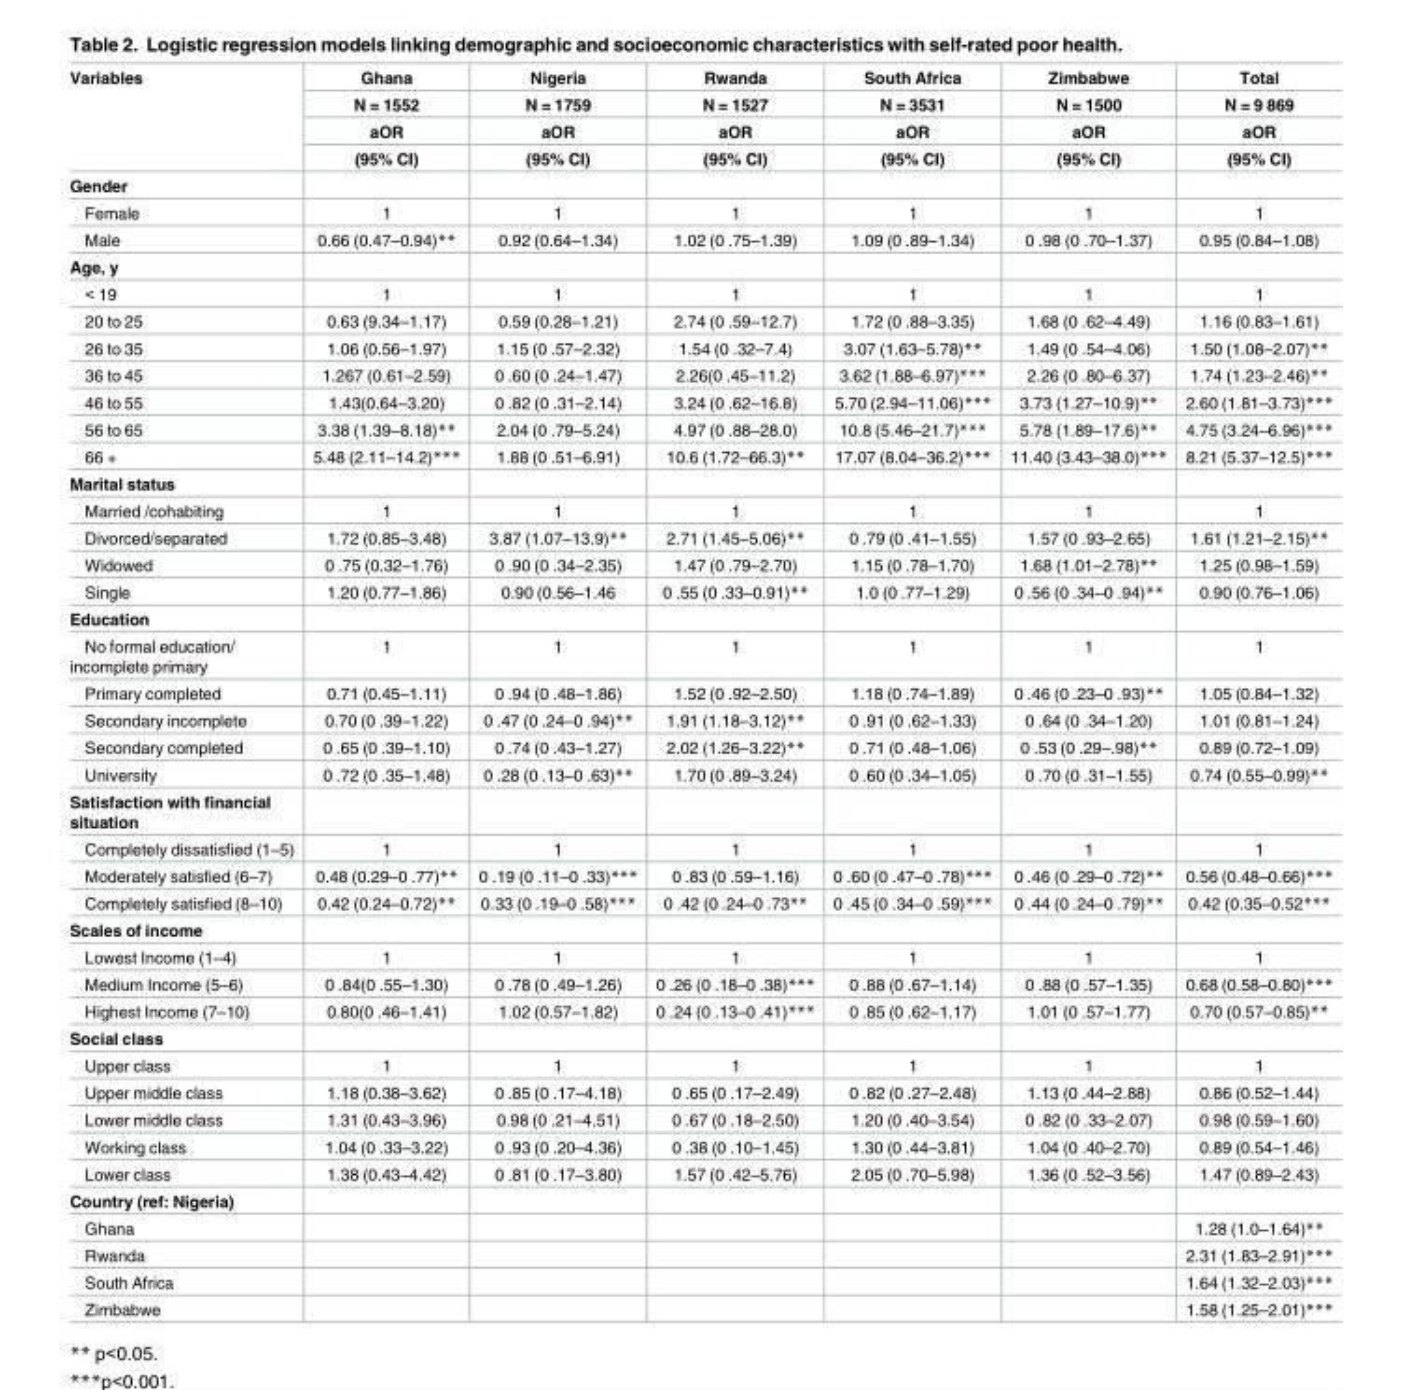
<table><thead><tr><td rowspan="4">Variables</td><td rowspan="4">Ghana N = 1552 aOR (95% CI)</td><td rowspan="4">Nigeria N = 1759 aOR (95% CI)</td><td rowspan="4">Rwanda N = 1527 aOR (95% CI)</td><td rowspan="4">South Africa N = 3531 aOR (95% CI)</td><td rowspan="4">Zimbabwe N = 1500 aOR (95% CI)</td><td rowspan="4">Total N = 9 869 aOR (95% CI)</td></tr><tr></tr><tr></tr><tr></tr></thead><tbody><tr><td colspan="7">Gender</td></tr><tr><td>Female</td><td>1</td><td>1</td><td>1</td><td>1</td><td>1</td><td>1</td></tr><tr><td>Male</td><td>0.66 (0.47–0.94)**</td><td>0.92 (0.64–1.34)</td><td>1.02 (0 .75–1.39)</td><td>1.09 (0 .89–1.34)</td><td>0 .98 (0 .70–1.37)</td><td>0.95 (0.84–1.08)</td></tr><tr><td colspan="7">Age, y</td></tr><tr><td>&lt; 19</td><td>1</td><td>1</td><td>1</td><td>1</td><td>1</td><td>1</td></tr><tr><td>20 to 25</td><td>0.63 (9.34–1.17)</td><td>0.59 (0.28–1.21)</td><td>2.74 (0 .59–12.7)</td><td>1.72 (0 .88–3.35)</td><td>1.68 (0 .62–4.49)</td><td>1.16 (0.83–1.61)</td></tr><tr><td>26 to 35</td><td>1.06 (0.56–1.97)</td><td>1.15 (0 .57–2.32)</td><td>1.54 (0 .32–7.4)</td><td>3.07 (1.63–5.78)**</td><td>1.49 (0 .54–4.06)</td><td>1.50 (1.08–2.07)**</td></tr><tr><td>36 to 45</td><td>1.267 (0.61–2.59)</td><td>0 .60 (0 .24–1.47)</td><td>2.26(0 .45–11.2)</td><td>3.62 (1.88–6.97)***</td><td>2.26 (0 .80–6.37)</td><td>1.74 (1.23–2.46)**</td></tr><tr><td>46 to 55</td><td>1.43(0.64–3.20)</td><td>0 .82 (0 .31–2.14)</td><td>3.24 (0 .62–16.8)</td><td>5.70 (2.94–11.06)***</td><td>3.73 (1.27–10.9)**</td><td>2.60 (1.81–3.73)***</td></tr><tr><td>56 to 65</td><td>3.38 (1.39–8.18)**</td><td>2.04 (0 .79–5.24)</td><td>4.97 (0 .88–28.0)</td><td>10.8 (5.46–21.7)***</td><td>5.78 (1.89–17.6)**</td><td>4.75 (3.24–6.96)***</td></tr><tr><td>66 +</td><td>5.48 (2.11–14.2)***</td><td>1.88 (0 .51–6.91)</td><td>10.6 (1.72–66.3)**</td><td>17.07 (8.04–36.2)***</td><td>11.40 (3.43–38.0)***</td><td>8.21 (5.37–12.5)***</td></tr><tr><td colspan="7">Marital status</td></tr><tr><td>Married /cohabiting</td><td>1</td><td>1</td><td>1</td><td>1</td><td>1</td><td>1</td></tr><tr><td>Divorced/separated</td><td>1.72 (0.85–3.48)</td><td>3.87 (1.07–13.9)**</td><td>2.71 (1.45–5.06)**</td><td>0 .79 (0 .41–1.55)</td><td>1.57 (0 .93–2.65)</td><td>1.61 (1.21–2.15)**</td></tr><tr><td>Widowed</td><td>0 .75 (0.32–1.76)</td><td>0 .90 (0 .34–2.35)</td><td>1.47 (0 .79–2.70)</td><td>1.15 (0 .78–1.70)</td><td>1.68 (1.01–2.78)**</td><td>1.25 (0.98–1.59)</td></tr><tr><td>Single</td><td>1.20 (0.77–1.86)</td><td>0.90 (0.56–1.46</td><td>0 .55 (0 .33–0.91)**</td><td>1.0 (0 .77–1.29)</td><td>0 .56 (0 .34–0 .94)**</td><td>0.90 (0.76–1.06)</td></tr><tr><td colspan="7">Education</td></tr><tr><td>No formal education/ incomplete primary</td><td>1</td><td>1</td><td>1</td><td>1</td><td>1</td><td>1</td></tr><tr><td>Primary completed</td><td>0.71 (0.45–1.11)</td><td>0 .94 (0 .48–1.86)</td><td>1.52 (0 .92–2.50)</td><td>1.18 (0 .74–1.89)</td><td>0 .46 (0 .23–0 .93)**</td><td>1.05 (0.84–1.32)</td></tr><tr><td>Secondary incomplete</td><td>0.70 (0 .39–1.22)</td><td>0 .47 (0 .24–0 .94)**</td><td>1.91 (1.18–3.12)**</td><td>0 .91 (0 .62–1.33)</td><td>0 .64 (0 .34–1.20)</td><td>1.01 (0.81–1.24)</td></tr><tr><td>Secondary completed</td><td>0 .65 (0 .39–1.10)</td><td>0 .74 (0 .43–1.27)</td><td>2.02 (1.26–3.22)**</td><td>0 .71 (0 .48–1.06)</td><td>0 .53 (0 .29–.98)**</td><td>0.89 (0.72–1.09)</td></tr><tr><td>University</td><td>0 .72 (0 .35–1.48)</td><td>0 .28 (0 .13–0 .63)**</td><td>1.70 (0 .89–3.24)</td><td>0 .60 (0 .34–1.05)</td><td>0 .70 (0 .31–1.55)</td><td>0.74 (0.55–0.99)**</td></tr><tr><td colspan="7">Satisfaction with financial situation</td></tr><tr><td>Completely dissatisfied (1–5)</td><td>1</td><td>1</td><td>1</td><td>1</td><td>1</td><td>1</td></tr><tr><td>Moderately satisfied (6–7)</td><td>0.48 (0.29–0 .77)**</td><td>0 .19 (0 .11–0 .33)***</td><td>0 .83 (0 .59–1.16)</td><td>0 .60 (0 .47–0 .78)***</td><td>0 .46 (0 .29–0 .72)**</td><td>0.56 (0.48–0.66)***</td></tr><tr><td>Completely satisfied (8–10)</td><td>0.42 (0.24–0.72)**</td><td>0.33 (0 .19–0 .58)***</td><td>0 .42 (0 .24–0 .73**</td><td>0 .45 (0 .34–0 .59)***</td><td>0 .44 (0 .24–0 .79)**</td><td>0.42 (0.35–0.52***</td></tr><tr><td colspan="7">Scales of income</td></tr><tr><td>Lowest Income (1–4)</td><td>1</td><td>1</td><td>1</td><td>1</td><td>1</td><td>1</td></tr><tr><td>Medium Income (5–6)</td><td>0 .84(0 .55–1.30)</td><td>0 .78 (0 .49–1.26)</td><td>0 .26 (0 .18–0 .38)***</td><td>0 .88 (0 .67–1.14)</td><td>0 .88 (0 .57–1.35)</td><td>0.68 (0.58–0.80)***</td></tr><tr><td>Highest Income (7–10)</td><td>0.80(0 .46–1.41)</td><td>1.02 (0.57–1.82)</td><td>0 .24 (0 .13–0 .41)***</td><td>0 .85 (0 .62–1.17)</td><td>1.01 (0 .57–1.77)</td><td>0.70 (0.57–0.85)**</td></tr><tr><td colspan="7">Social class</td></tr><tr><td>Upper class</td><td>1</td><td>1</td><td>1</td><td>1</td><td>1</td><td>1</td></tr><tr><td>Upper middle class</td><td>1.18 (0.38–3.62)</td><td>0 .85 (0 .17–4.18)</td><td>0 .65 (0 .17–2.49)</td><td>0 .82 (0 .27–2.48)</td><td>1.13 (0 .44–2.88)</td><td>0.86 (0.52–1.44)</td></tr><tr><td>Lower middle class</td><td>1.31 (0.43–3.96)</td><td>0.98 (0 .21–4.51)</td><td>0 .67 (0 .18–2.50)</td><td>1.20 (0 .40–3.54)</td><td>0 .82 (0 .33–2.07)</td><td>0.98 (0.59–1.60)</td></tr><tr><td>Working class</td><td>1.04 (0 .33–3.22)</td><td>0 .93 (0 .20–4.36)</td><td>0 .38 (0 .10–1.45)</td><td>1.30 (0 .44–3.81)</td><td>1.04 (0 .40–2.70)</td><td>0.89 (0.54–1.46)</td></tr><tr><td>Lower class</td><td>1.38 (0.43–4.42)</td><td>0 .81 (0 .17–3.80)</td><td>1.57 (0 .42–5.76)</td><td>2.05 (0 .70–5.98)</td><td>1.36 (0 .52–3.56)</td><td>1.47 (0.89–2.43)</td></tr><tr><td colspan="7">Country (ref: Nigeria)</td></tr><tr><td>Ghana</td><td></td><td></td><td></td><td></td><td></td><td>1.28 (1.0–1.64)**</td></tr><tr><td>Rwanda</td><td></td><td></td><td></td><td></td><td></td><td>2.31 (1.83–2.91)***</td></tr><tr><td>South Africa</td><td></td><td></td><td></td><td></td><td></td><td>1.64 (1.32–2.03)***</td></tr><tr><td>Zimbabwe</td><td></td><td></td><td></td><td></td><td></td><td>1.58 (1.25–2.01)***</td></tr></tbody></table>